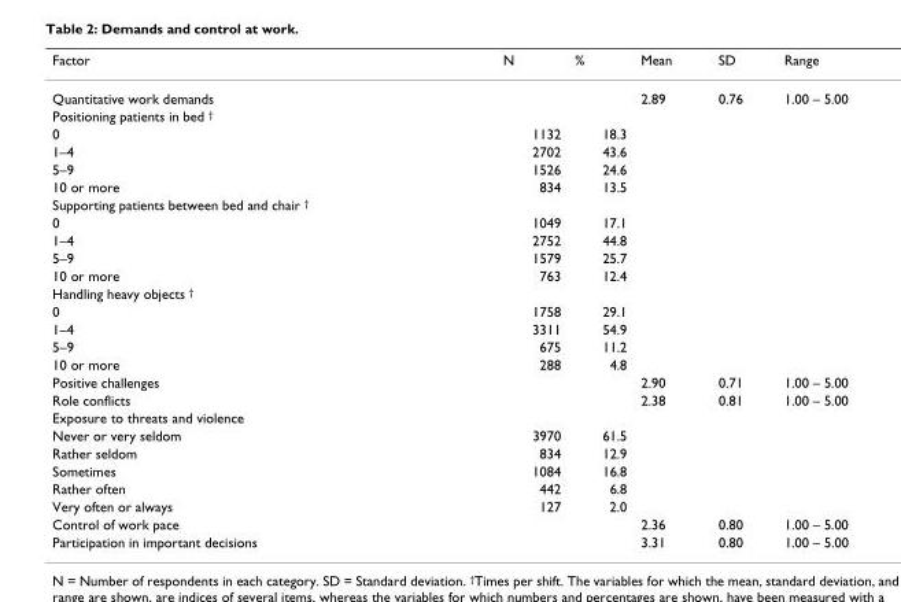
<table><thead><tr><td>Factor</td><td>N</td><td>%</td><td>Mean</td><td>SD</td><td>Range</td></tr></thead><tbody><tr><td>Quantitative work demands</td><td></td><td></td><td>2.89</td><td>0.76</td><td>1.00 – 5.00</td></tr><tr><td colspan="6">Positioning patients in bed †</td></tr><tr><td>0</td><td>1132</td><td>18.3</td><td></td><td></td><td></td></tr><tr><td>1–4</td><td>2702</td><td>43.6</td><td></td><td></td><td></td></tr><tr><td>5–9</td><td>1526</td><td>24.6</td><td></td><td></td><td></td></tr><tr><td>10 or more</td><td>834</td><td>13.5</td><td></td><td></td><td></td></tr><tr><td colspan="6">Supporting patients between bed and chair †</td></tr><tr><td>0</td><td>1049</td><td>17.1</td><td></td><td></td><td></td></tr><tr><td>1–4</td><td>2752</td><td>44.8</td><td></td><td></td><td></td></tr><tr><td>5–9</td><td>1579</td><td>25.7</td><td></td><td></td><td></td></tr><tr><td>10 or more</td><td>763</td><td>12.4</td><td></td><td></td><td></td></tr><tr><td colspan="6">Handling heavy objects †</td></tr><tr><td>0</td><td>1758</td><td>29.1</td><td></td><td></td><td></td></tr><tr><td>1–4</td><td>3311</td><td>54.9</td><td></td><td></td><td></td></tr><tr><td>5–9</td><td>675</td><td>11.2</td><td></td><td></td><td></td></tr><tr><td>10 or more</td><td>288</td><td>4.8</td><td></td><td></td><td></td></tr><tr><td>Positive challenges</td><td></td><td></td><td>2.90</td><td>0.71</td><td>1.00 – 5.00</td></tr><tr><td>Role conflicts</td><td></td><td></td><td>2.38</td><td>0.81</td><td>1.00 – 5.00</td></tr><tr><td colspan="6">Exposure to threats and violence</td></tr><tr><td>Never or very seldom</td><td>3970</td><td>61.5</td><td></td><td></td><td></td></tr><tr><td>Rather seldom</td><td>834</td><td>12.9</td><td></td><td></td><td></td></tr><tr><td>Sometimes</td><td>1084</td><td>16.8</td><td></td><td></td><td></td></tr><tr><td>Rather often</td><td>442</td><td>6.8</td><td></td><td></td><td></td></tr><tr><td>Very often or always</td><td>127</td><td>2.0</td><td></td><td></td><td></td></tr><tr><td>Control of work pace</td><td></td><td></td><td>2.36</td><td>0.80</td><td>1.00 – 5.00</td></tr><tr><td>Participation in important decisions</td><td></td><td></td><td>3.31</td><td>0.80</td><td>1.00 – 5.00</td></tr></tbody></table>